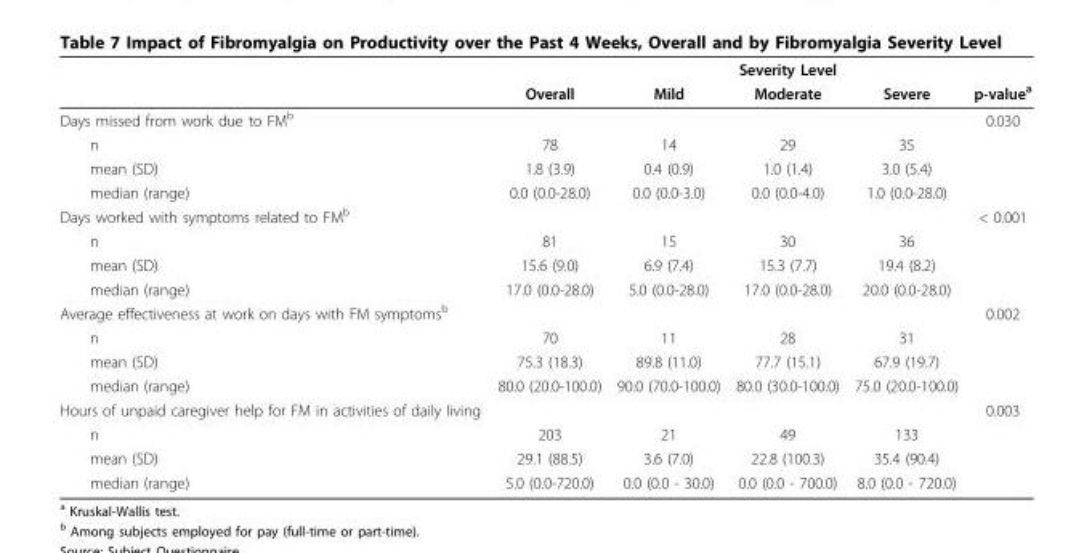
<table><thead><tr><td rowspan="2"></td><td rowspan="2">Overall</td><td colspan="3">Severity Level</td><td rowspan="2">p-value<sup>a</sup></td></tr><tr><td>Mild</td><td>Moderate</td><td>Severe</td></tr></thead><tbody><tr><td>Days missed from work due to FM<sup>b</sup></td><td></td><td></td><td></td><td></td><td>0.030</td></tr><tr><td>n</td><td>78</td><td>14</td><td>29</td><td>35</td><td></td></tr><tr><td>mean (SD)</td><td>1.8 (3.9)</td><td>0.4 (0.9)</td><td>1.0 (1.4)</td><td>3.0 (5.4)</td><td></td></tr><tr><td>median (range)</td><td>0.0 (0.0-28.0)</td><td>0.0 (0.0-3.0)</td><td>0.0 (0.0-4.0)</td><td>1.0 (0.0-28.0)</td><td></td></tr><tr><td>Days worked with symptoms related to FM<sup>b</sup></td><td></td><td></td><td></td><td></td><td>&lt; 0.001</td></tr><tr><td>n</td><td>81</td><td>15</td><td>30</td><td>36</td><td></td></tr><tr><td>mean (SD)</td><td>15.6 (9.0)</td><td>6.9 (7.4)</td><td>15.3 (7.7)</td><td>19.4 (8.2)</td><td></td></tr><tr><td>median (range)</td><td>17.0 (0.0-28.0)</td><td>5.0 (0.0-28.0)</td><td>17.0 (0.0-28.0)</td><td>20.0 (0.0-28.0)</td><td></td></tr><tr><td>Average effectiveness at work on days with FM symptoms<sup>b</sup></td><td></td><td></td><td></td><td></td><td>0.002</td></tr><tr><td>n</td><td>70</td><td>11</td><td>28</td><td>31</td><td></td></tr><tr><td>mean (SD)</td><td>75.3 (18.3)</td><td>89.8 (11.0)</td><td>77.7 (15.1)</td><td>67.9 (19.7)</td><td></td></tr><tr><td>median (range)</td><td>80.0 (20.0-100.0)</td><td>90.0 (70.0-100.0)</td><td>80.0 (30.0-100.0)</td><td>75.0 (20.0-100.0)</td><td></td></tr><tr><td>Hours of unpaid caregiver help for FM in activities of daily living</td><td></td><td></td><td></td><td></td><td>0.003</td></tr><tr><td>n</td><td>203</td><td>21</td><td>49</td><td>133</td><td></td></tr><tr><td>mean (SD)</td><td>29.1 (88.5)</td><td>3.6 (7.0)</td><td>22.8 (100.3)</td><td>35.4 (90.4)</td><td></td></tr><tr><td>median (range)</td><td>5.0 (0.0-720.0)</td><td>0.0 (0.0 - 30.0)</td><td>0.0 (0.0 - 700.0)</td><td>8.0 (0.0 - 720.0)</td><td></td></tr></tbody></table>